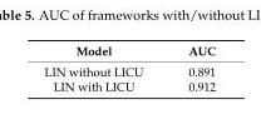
<table><thead><tr><td>Model</td><td>AUC</td></tr></thead><tbody><tr><td>LIN without LICU</td><td>0.891</td></tr><tr><td>LIN with LICU</td><td>0.912</td></tr></tbody></table>